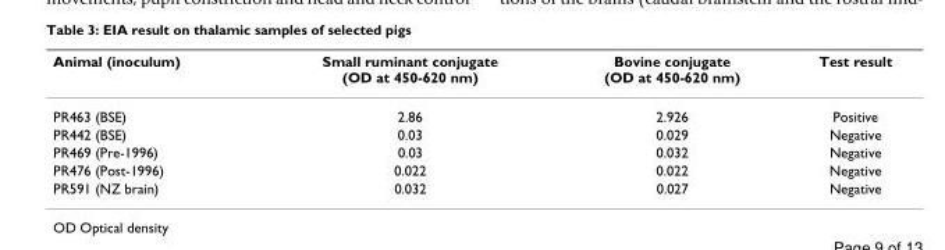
<table><thead><tr><td>Animal (inoculum)</td><td>Small ruminant conjugate (OD at 450-620 nm)</td><td>Bovine conjugate (OD at 450-620 nm)</td><td>Test result</td></tr></thead><tbody><tr><td>PR463 (BSE)</td><td>2.86</td><td>2.926</td><td>Positive</td></tr><tr><td>PR442 (BSE)</td><td>0.03</td><td>0.029</td><td>Negative</td></tr><tr><td>PR469 (Pre-1996)</td><td>0.03</td><td>0.032</td><td>Negative</td></tr><tr><td>PR476 (Post-1996)</td><td>0.022</td><td>0.022</td><td>Negative</td></tr><tr><td>PR591 (NZ brain)</td><td>0.032</td><td>0.027</td><td>Negative</td></tr></tbody></table>